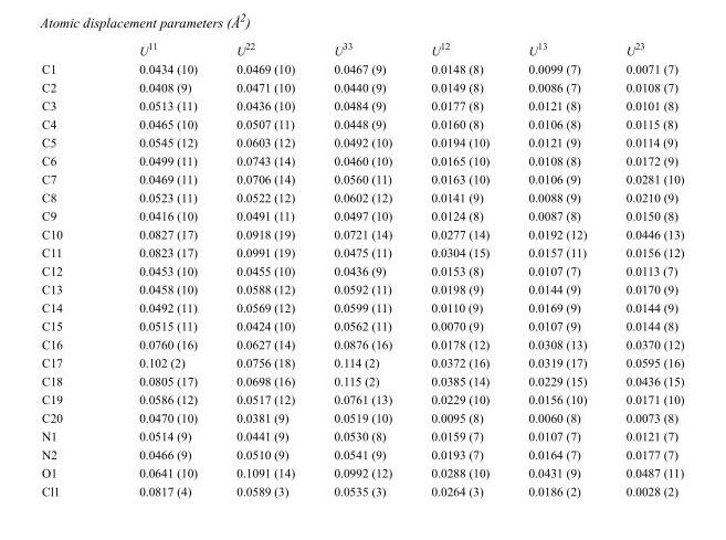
<table><thead><tr><td></td><td>U<sup>11</sup></td><td>U<sup>22</sup></td><td>U<sup>33</sup></td><td>U<sup>12</sup></td><td>U<sup>13</sup></td><td>U<sup>23</sup></td></tr></thead><tbody><tr><td>C1</td><td>0.0434 (10)</td><td>0.0469 (10)</td><td>0.0467 (9)</td><td>0.0148 (8)</td><td>0.0099 (7)</td><td>0.0071 (7)</td></tr><tr><td>C2</td><td>0.0408 (9)</td><td>0.0471 (10)</td><td>0.0440 (9)</td><td>0.0149 (8)</td><td>0.0086 (7)</td><td>0.0108 (7)</td></tr><tr><td>C3</td><td>0.0513 (11)</td><td>0.0436 (10)</td><td>0.0484 (9)</td><td>0.0177 (8)</td><td>0.0121 (8)</td><td>0.0101 (8)</td></tr><tr><td>C4</td><td>0.0465 (10)</td><td>0.0507 (11)</td><td>0.0448 (9)</td><td>0.0160 (8)</td><td>0.0106 (8)</td><td>0.0115 (8)</td></tr><tr><td>C5</td><td>0.0545 (12)</td><td>0.0603 (12)</td><td>0.0492 (10)</td><td>0.0194 (10)</td><td>0.0121 (9)</td><td>0.0114 (9)</td></tr><tr><td>C6</td><td>0.0499 (11)</td><td>0.0743 (14)</td><td>0.0460 (10)</td><td>0.0165 (10)</td><td>0.0108 (8)</td><td>0.0172 (9)</td></tr><tr><td>C7</td><td>0.0469 (11)</td><td>0.0706 (14)</td><td>0.0560 (11)</td><td>0.0163 (10)</td><td>0.0106 (9)</td><td>0.0281 (10)</td></tr><tr><td>C8</td><td>0.0523 (11)</td><td>0.0522 (12)</td><td>0.0602 (12)</td><td>0.0141 (9)</td><td>0.0088 (9)</td><td>0.0210 (9)</td></tr><tr><td>C9</td><td>0.0416 (10)</td><td>0.0491 (11)</td><td>0.0497 (10)</td><td>0.0124 (8)</td><td>0.0087 (8)</td><td>0.0150 (8)</td></tr><tr><td>C10</td><td>0.0827 (17)</td><td>0.0918 (19)</td><td>0.0721 (14)</td><td>0.0277 (14)</td><td>0.0192 (12)</td><td>0.0446 (13)</td></tr><tr><td>C11</td><td>0.0823 (17)</td><td>0.0991 (19)</td><td>0.0475 (11)</td><td>0.0304 (15)</td><td>0.0157 (11)</td><td>0.0156 (12)</td></tr><tr><td>C12</td><td>0.0453 (10)</td><td>0.0455 (10)</td><td>0.0436 (9)</td><td>0.0153 (8)</td><td>0.0107 (7)</td><td>0.0113 (7)</td></tr><tr><td>C13</td><td>0.0458 (10)</td><td>0.0588 (12)</td><td>0.0592 (11)</td><td>0.0198 (9)</td><td>0.0144 (9)</td><td>0.0170 (9)</td></tr><tr><td>C14</td><td>0.0492 (11)</td><td>0.0569 (12)</td><td>0.0599 (11)</td><td>0.0110 (9)</td><td>0.0169 (9)</td><td>0.0144 (9)</td></tr><tr><td>C15</td><td>0.0515 (11)</td><td>0.0424 (10)</td><td>0.0562 (11)</td><td>0.0070 (9)</td><td>0.0107 (9)</td><td>0.0144 (8)</td></tr><tr><td>C16</td><td>0.0760 (16)</td><td>0.0627 (14)</td><td>0.0876 (16)</td><td>0.0178 (12)</td><td>0.0308 (13)</td><td>0.0370 (12)</td></tr><tr><td>C17</td><td>0.102 (2)</td><td>0.0756 (18)</td><td>0.114 (2)</td><td>0.0372 (16)</td><td>0.0319 (17)</td><td>0.0595 (16)</td></tr><tr><td>C18</td><td>0.0805 (17)</td><td>0.0698 (16)</td><td>0.115 (2)</td><td>0.0385 (14)</td><td>0.0229 (15)</td><td>0.0436 (15)</td></tr><tr><td>C19</td><td>0.0586 (12)</td><td>0.0517 (12)</td><td>0.0761 (13)</td><td>0.0229 (10)</td><td>0.0156 (10)</td><td>0.0171 (10)</td></tr><tr><td>C20</td><td>0.0470 (10)</td><td>0.0381 (9)</td><td>0.0519 (10)</td><td>0.0095 (8)</td><td>0.0060 (8)</td><td>0.0073 (8)</td></tr><tr><td>N1</td><td>0.0514 (9)</td><td>0.0441 (9)</td><td>0.0530 (8)</td><td>0.0159 (7)</td><td>0.0107 (7)</td><td>0.0121 (7)</td></tr><tr><td>N2</td><td>0.0466 (9)</td><td>0.0510 (9)</td><td>0.0541 (9)</td><td>0.0193 (7)</td><td>0.0164 (7)</td><td>0.0177 (7)</td></tr><tr><td>O1</td><td>0.0641 (10)</td><td>0.1091 (14)</td><td>0.0992 (12)</td><td>0.0288 (10)</td><td>0.0431 (9)</td><td>0.0487 (11)</td></tr><tr><td>Cl1</td><td>0.0817 (4)</td><td>0.0589 (3)</td><td>0.0535 (3)</td><td>0.0264 (3)</td><td>0.0186 (2)</td><td>0.0028 (2)</td></tr></tbody></table>